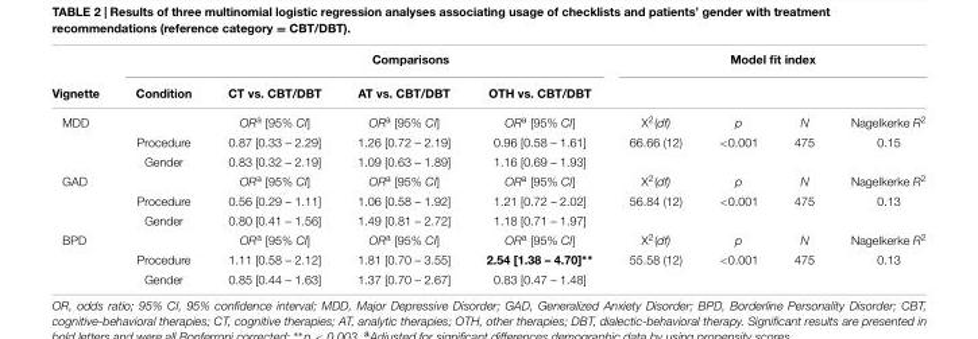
<table><thead><tr><td rowspan="2">Vignette</td><td colspan="4">Comparisons</td><td colspan="4">Model fit index</td></tr><tr><td>Condition</td><td>CT vs. CBT/DBT</td><td>AT vs. CBT/DBT</td><td>OTH vs. CBT/DBT</td><td></td><td></td><td></td><td></td></tr></thead><tbody><tr><td colspan="2">MDD</td><td>OR<sup>a</sup> [95% CI]</td><td>OR<sup>a</sup> [95% CI]</td><td>OR<sup>a</sup> [95% CI]</td><td>X<sup>2</sup>(df)</td><td>p</td><td>N</td><td>Nagelkerke R<sup>2</sup></td></tr><tr><td></td><td>Procedure</td><td>0.87 [0.33 – 2.29]</td><td>1.26 [0.72 – 2.19]</td><td>0.96 [0.58 – 1.61]</td><td>66.66 (12)</td><td>&lt;0.001</td><td>475</td><td>0.15</td></tr><tr><td></td><td>Gender</td><td>0.83 [0.32 – 2.19]</td><td>1.09 [0.63 – 1.89]</td><td>1.16 [0.69 – 1.93]</td><td></td><td></td><td></td><td></td></tr><tr><td colspan="2">GAD</td><td>OR<sup>a</sup> [95% CI]</td><td>OR<sup>a</sup> [95% CI]</td><td>OR<sup>a</sup> [95% CI]</td><td>X<sup>2</sup>(df)</td><td>p</td><td>N</td><td>Nagelkerke R<sup>2</sup></td></tr><tr><td></td><td>Procedure</td><td>0.56 [0.29 – 1.11]</td><td>1.06 [0.58 – 1.92]</td><td>1.21 [0.72 – 2.02]</td><td>56.84 (12)</td><td>&lt;0.001</td><td>475</td><td>0.13</td></tr><tr><td></td><td>Gender</td><td>0.80 [0.41 – 1.56]</td><td>1.49 [0.81 – 2.72]</td><td>1.18 [0.71 – 1.97]</td><td></td><td></td><td></td><td></td></tr><tr><td colspan="2">BPD</td><td>OR<sup>a</sup> [95% CI]</td><td>OR<sup>a</sup> [95% CI]</td><td>OR<sup>a</sup> [95% CI]</td><td>X<sup>2</sup>(df)</td><td>p</td><td>N</td><td>Nagelkerke R<sup>2</sup></td></tr><tr><td></td><td>Procedure</td><td>1.11 [0.58 – 2.12]</td><td>1.81 [0.70 – 3.55]</td><td>2.54 [1.38 – 4.70]∗∗</td><td>55.58 (12)</td><td>&lt;0.001</td><td>475</td><td>0.13</td></tr><tr><td></td><td>Gender</td><td>0.85 [0.44 – 1.63]</td><td>1.37 [0.70 – 2.67]</td><td>0.83 [0.47 – 1.48]</td><td></td><td></td><td></td><td></td></tr></tbody></table>